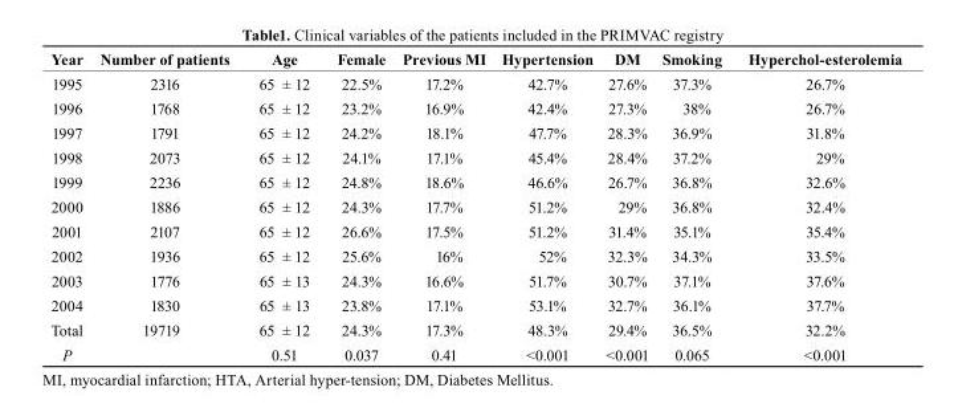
<table><thead><tr><td>Year</td><td>Number of patients</td><td>Age</td><td>Female</td><td>Previous MI</td><td>Hypertension</td><td>DM</td><td>smoking</td><td>Hyperchol-esterolemia</td></tr></thead><tbody><tr><td>1995</td><td>2316</td><td>65 ± 12</td><td>22.5%</td><td>17.2%</td><td>42.7%</td><td>27.6%</td><td>37.3%</td><td>26.7%</td></tr><tr><td>1996</td><td>1768</td><td>65 ± 12</td><td>23.2%</td><td>16.9%</td><td>42.4%</td><td>27.3%</td><td>38%</td><td>26.7%</td></tr><tr><td>1997</td><td>1791</td><td>65 ± 12</td><td>24.2%</td><td>18.1%</td><td>47.7%</td><td>28.3%</td><td>36.9%</td><td>31.8%</td></tr><tr><td>1998</td><td>2073</td><td>65 ± 12</td><td>24.1%</td><td>17.1%</td><td>45.4%</td><td>28.4%</td><td>37.2%</td><td>29%</td></tr><tr><td>1999</td><td>2236</td><td>65 ± 12</td><td>24.8%</td><td>18.6%</td><td>46.6%</td><td>26.7%</td><td>36.8%</td><td>32.6%</td></tr><tr><td>2000</td><td>1886</td><td>65 ± 12</td><td>24.3%</td><td>17.7%</td><td>51.2%</td><td>29%</td><td>36.8%</td><td>32.4%</td></tr><tr><td>2001</td><td>2107</td><td>65 ± 12</td><td>26.6%</td><td>17.5%</td><td>51.2%</td><td>31.4%</td><td>35.1%</td><td>35.4%</td></tr><tr><td>2002</td><td>1936</td><td>65 ± 12</td><td>25.6%</td><td>16%</td><td>52%</td><td>32.3%</td><td>34.3%</td><td>33.5%</td></tr><tr><td>2003</td><td>1776</td><td>65 ± 13</td><td>24.3%</td><td>16.6%</td><td>51.7%</td><td>30.7%</td><td>37.1%</td><td>37.6%</td></tr><tr><td>2004</td><td>1830</td><td>65 ± 13</td><td>23.8%</td><td>17.1%</td><td>53.1%</td><td>32.7%</td><td>36.1%</td><td>37.7%</td></tr><tr><td>Total</td><td>19719</td><td>65 ± 12</td><td>24.3%</td><td>17.3%</td><td>48.3%</td><td>29.4%</td><td>36.5%</td><td>32.2%</td></tr><tr><td>P</td><td></td><td>0.51</td><td>0.037</td><td>0.41</td><td>&lt;0.001</td><td>&lt;0.001</td><td>0.065</td><td>&lt;0.001</td></tr></tbody></table>